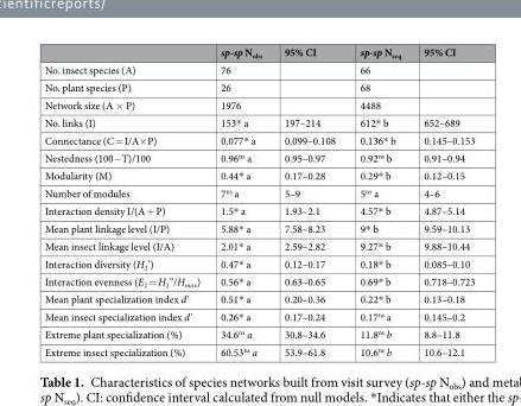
<table><thead><tr><td></td><td>sp-sp N<sub>obs</sub></td><td>95% CI</td><td>sp-sp N<sub>seq</sub></td><td>95% CI</td></tr></thead><tbody><tr><td>No. insect species (A)</td><td>76</td><td></td><td>66</td><td></td></tr><tr><td>No. plant species (P)</td><td>26</td><td></td><td>68</td><td></td></tr><tr><td>Network size (A × P)</td><td>1976</td><td></td><td>4488</td><td></td></tr><tr><td>No. links (I)</td><td>153* a</td><td>197–214</td><td>612* b</td><td>652–689</td></tr><tr><td>Connectance (C = I/A×P)</td><td>0.077* a</td><td>0.099–0.108</td><td>0.136* b</td><td>0.145–0.153</td></tr><tr><td>Nestedness (100−T)/100</td><td>0.96<sup>ns</sup> a</td><td>0.95–0.97</td><td>0.92<sup>ns</sup> b</td><td>0.91–0.94</td></tr><tr><td>Modularity (M)</td><td>0.44* a</td><td>0.17–0.28</td><td>0.29* b</td><td>0.12–0.15</td></tr><tr><td>Number of modules</td><td>7<sup>ns</sup> a</td><td>5–9</td><td>5<sup>ns</sup> a</td><td>4–6</td></tr><tr><td>Interaction density I/(A + P)</td><td>1.5* a</td><td>1.93–2.1</td><td>4.57* b</td><td>4.87–5.14</td></tr><tr><td>Mean plant linkage level (I/P)</td><td>5.88* a</td><td>7.58–8.23</td><td>9* b</td><td>9.59–10.13</td></tr><tr><td>Mean insect linkage level (I/A)</td><td>2.01* a</td><td>2.59–2.82</td><td>9.27* b</td><td>9.88–10.44</td></tr><tr><td>Interaction diversity (H<sub>2</sub>’)</td><td>0.47* a</td><td>0.12–0.17</td><td>0.18* b</td><td>0.085–0.10</td></tr><tr><td>Interaction evenness (E<sub>2</sub> = H<sub>2</sub>”/H<sub>max</sub>)</td><td>0.56* a</td><td>0.63–0.65</td><td>0.69* b</td><td>0.718–0.723</td></tr><tr><td>Mean plant specialization index d’</td><td>0.51* a</td><td>0.20–0.36</td><td>0.22* b</td><td>0.13–0.18</td></tr><tr><td>Mean insect specialization index d’</td><td>0.26* a</td><td>0.17–0.24</td><td>0.17<sup>ns</sup> a</td><td>0.145–0.2</td></tr><tr><td>Extreme plant specialization (%)</td><td>34.6<sup>ns</sup> a</td><td>30.8–34.6</td><td>11.8<sup>ns</sup> b</td><td>8.8–11.8</td></tr><tr><td>Extreme insect specialization (%)</td><td>60.53<sup>ns</sup> a</td><td>53.9–61.8</td><td>10.6<sup>ns</sup> b</td><td>10.6–12.1</td></tr></tbody></table>